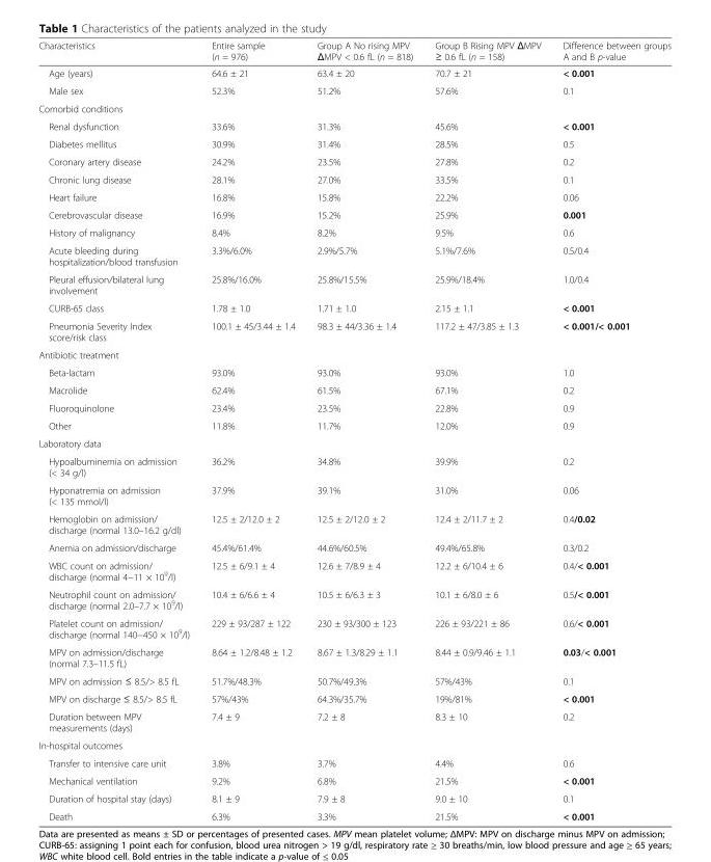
<table><thead><tr><td>Characteristics</td><td>Entire sample (n = 976)</td><td>Group A No rising MPV ΔMPV &lt; 0.6 fL (n = 818)</td><td>Group B Rising MPV ΔMPV ≥ 0.6 fL (n = 158)</td><td>Difference between groups A and B p-value</td></tr></thead><tbody><tr><td>Age (years)</td><td>64.6 ± 21</td><td>63.4 ± 20</td><td>70.7 ± 21</td><td>&lt; 0.001</td></tr><tr><td>Male sex</td><td>52.3%</td><td>51.2%</td><td>57.6%</td><td>0.1</td></tr><tr><td colspan="5">Comorbid conditions</td></tr><tr><td>Renal dysfunction</td><td>33.6%</td><td>31.3%</td><td>45.6%</td><td>&lt; 0.001</td></tr><tr><td>Diabetes mellitus</td><td>30.9%</td><td>31.4%</td><td>28.5%</td><td>0.5</td></tr><tr><td>Coronary artery disease</td><td>24.2%</td><td>23.5%</td><td>27.8%</td><td>0.2</td></tr><tr><td>Chronic lung disease</td><td>28.1%</td><td>27.0%</td><td>33.5%</td><td>0.1</td></tr><tr><td>Heart failure</td><td>16.8%</td><td>15.8%</td><td>22.2%</td><td>0.06</td></tr><tr><td>Cerebrovascular disease</td><td>16.9%</td><td>15.2%</td><td>25.9%</td><td>0.001</td></tr><tr><td>History of malignancy</td><td>8.4%</td><td>8.2%</td><td>9.5%</td><td>0.6</td></tr><tr><td>Acute bleeding during hospitalization/blood transfusion</td><td>3.3%/6.0%</td><td>2.9%/5.7%</td><td>5.1%/7.6%</td><td>0.5/0.4</td></tr><tr><td>Pleural effusion/bilateral lung involvement</td><td>25.8%/16.0%</td><td>25.8%/15.5%</td><td>25.9%/18.4%</td><td>1.0/0.4</td></tr><tr><td>CURB-65 class</td><td>1.78 ± 1.0</td><td>1.71 ± 1.0</td><td>2.15 ± 1.1</td><td>&lt; 0.001</td></tr><tr><td>Pneumonia Severity Index score/risk class</td><td>100.1 ± 45/3.44 ± 1.4</td><td>98.3 ± 44/3.36 ± 1.4</td><td>117.2 ± 47/3.85 ± 1.3</td><td>&lt; 0.001/&lt; 0.001</td></tr><tr><td colspan="5">Antibiotic treatment</td></tr><tr><td>Beta-lactam</td><td>93.0%</td><td>93.0%</td><td>93.0%</td><td>1.0</td></tr><tr><td>Macrolide</td><td>62.4%</td><td>61.5%</td><td>67.1%</td><td>0.2</td></tr><tr><td>Fluoroquinolone</td><td>23.4%</td><td>23.5%</td><td>22.8%</td><td>0.9</td></tr><tr><td>Other</td><td>11.8%</td><td>11.7%</td><td>12.0%</td><td>0.9</td></tr><tr><td colspan="5">Laboratory data</td></tr><tr><td>Hypoalbuminemia on admission (&lt; 34 g/l)</td><td>36.2%</td><td>34.8%</td><td>39.9%</td><td>0.2</td></tr><tr><td>Hyponatremia on admission (&lt; 135 mmol/l)</td><td>37.9%</td><td>39.1%</td><td>31.0%</td><td>0.06</td></tr><tr><td>Hemoglobin on admission/ discharge (normal 13.0–16.2 g/dl)</td><td>12.5 ± 2/12.0 ± 2</td><td>12.5 ± 2/12.0 ± 2</td><td>12.4 ± 2/11.7 ± 2</td><td>0.4/0.02</td></tr><tr><td>Anemia on admission/discharge</td><td>45.4%/61.4%</td><td>44.6%/60.5%</td><td>49.4%/65.8%</td><td>0.3/0.2</td></tr><tr><td>WBC count on admission/ discharge (normal 4−11 × 10<sup>9</sup>/l)</td><td>12.5 ± 6/9.1 ± 4</td><td>12.6 ± 7/8.9 ± 4</td><td>12.2 ± 6/10.4 ± 6</td><td>0.4/&lt; 0.001</td></tr><tr><td>Neutrophil count on admission/ discharge (normal 2.0–7.7 × 10<sup>9</sup>/l)</td><td>10.4 ± 6/6.6 ± 4</td><td>10.5 ± 6/6.3 ± 3</td><td>10.1 ± 6/8.0 ± 6</td><td>0.5/&lt; 0.001</td></tr><tr><td>Platelet count on admission/ discharge (normal 140−450 × 10<sup>9</sup>/l)</td><td>229 ± 93/287 ± 122</td><td>230 ± 93/300 ± 123</td><td>226 ± 93/221 ± 86</td><td>0.6/&lt; 0.001</td></tr><tr><td>MPV on admission/discharge (normal 7.3–11.5 fL)</td><td>8.64 ± 1.2/8.48 ± 1.2</td><td>8.67 ± 1.3/8.29 ± 1.1</td><td>8.44 ± 0.9/9.46 ± 1.1</td><td>0.03/&lt; 0.001</td></tr><tr><td>MPV on admission ≤ 8.5/&gt; 8.5 fL</td><td>51.7%/48.3%</td><td>50.7%/49.3%</td><td>57%/43%</td><td>0.1</td></tr><tr><td>MPV on discharge ≤ 8.5/&gt; 8.5 fL</td><td>57%/43%</td><td>64.3%/35.7%</td><td>19%/81%</td><td>&lt; 0.001</td></tr><tr><td>Duration between MPV measurements (days)</td><td>7.4 ± 9</td><td>7.2 ± 8</td><td>8.3 ± 10</td><td>0.2</td></tr><tr><td colspan="5">In-hospital outcomes</td></tr><tr><td>Transfer to intensive care unit</td><td>3.8%</td><td>3.7%</td><td>4.4%</td><td>0.6</td></tr><tr><td>Mechanical ventilation</td><td>9.2%</td><td>6.8%</td><td>21.5%</td><td>&lt; 0.001</td></tr><tr><td>Duration of hospital stay (days)</td><td>8.1 ± 9</td><td>7.9 ± 8</td><td>9.0 ± 10</td><td>0.1</td></tr><tr><td>Death</td><td>6.3%</td><td>3.3%</td><td>21.5%</td><td>&lt; 0.001</td></tr></tbody></table>